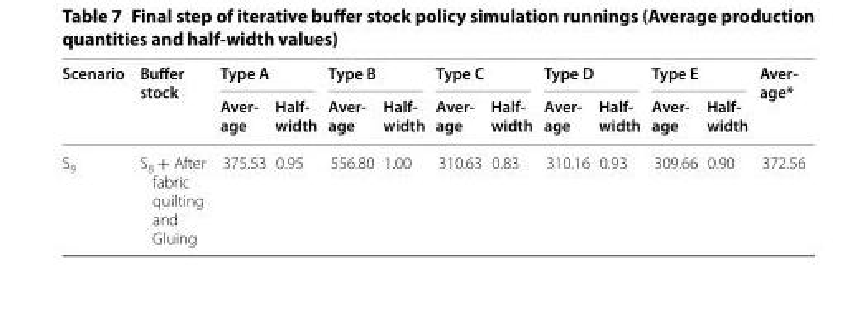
<table><thead><tr><td rowspan="2">Scenario</td><td rowspan="2">Buffer stock</td><td colspan="2">Type A</td><td colspan="2">Type B</td><td colspan="2">Type C</td><td colspan="2">Type D</td><td colspan="2">Type E</td><td rowspan="2">Aver- age*</td></tr><tr><td>Aver- age</td><td>Half- width</td><td>Aver- age</td><td>Half- width</td><td>Aver- age</td><td>Half- width</td><td>Aver- age</td><td>Half- width</td><td>Aver- age</td><td>Half- width</td></tr></thead><tbody><tr><td>S<sub>9</sub></td><td>S<sub>8</sub> + After fabric quilting and Gluing</td><td>375.53</td><td>0.95</td><td>556.80</td><td>1.00</td><td>310.63</td><td>0.83</td><td>310.16</td><td>0.93</td><td>309.66</td><td>0.90</td><td>372.56</td></tr></tbody></table>